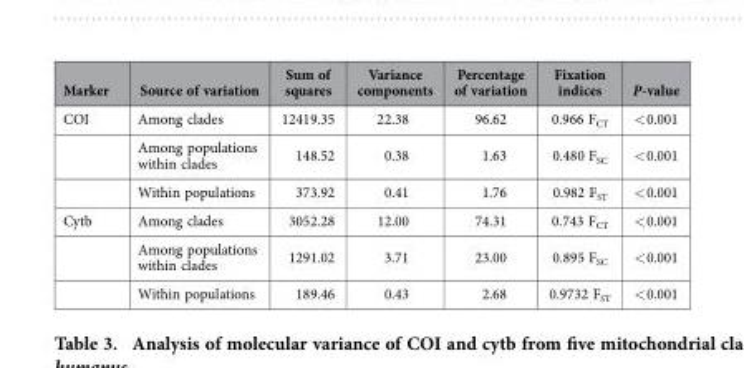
<table><thead><tr><td>Marker</td><td>Source of variation</td><td>Sum of squares</td><td>Variance components</td><td>Percentage of variation</td><td>Fixation indices</td><td>P-value</td></tr></thead><tbody><tr><td rowspan="3">COI</td><td>Among clades</td><td>12419.35</td><td>22.38</td><td>96.62</td><td>0.966 F<sub>CT</sub></td><td>&lt; 0.001</td></tr><tr><td>Among populations within clades</td><td>148.52</td><td>0.38</td><td>1.63</td><td>0.480 F<sub>SC</sub></td><td>&lt; 0.001</td></tr><tr><td>Within populations</td><td>373.92</td><td>0.41</td><td>1.76</td><td>0.982 F<sub>ST</sub></td><td>&lt; 0.001</td></tr><tr><td rowspan="3">Cytb</td><td>Among clades</td><td>3052.28</td><td>12.00</td><td>74.31</td><td>0.743 F<sub>CT</sub></td><td>&lt; 0.001</td></tr><tr><td>Among populations within clades</td><td>1291.02</td><td>3.71</td><td>23.00</td><td>0.895 F<sub>SC</sub></td><td>&lt; 0.001</td></tr><tr><td>Within populations</td><td>189.46</td><td>0.43</td><td>2.68</td><td>0.9732 F<sub>ST</sub></td><td>&lt; 0.001</td></tr></tbody></table>